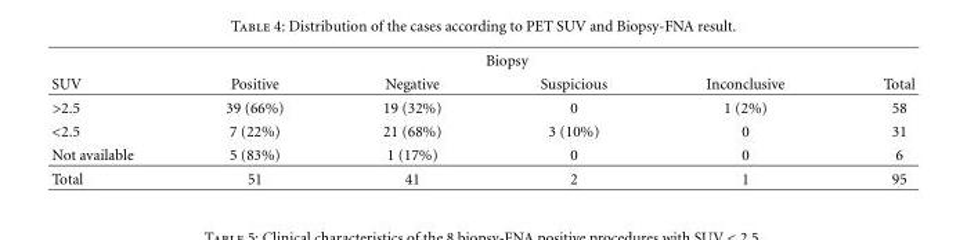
<table><thead><tr><td rowspan="2">SUV</td><td colspan="4">Biopsy</td><td rowspan="2">Total</td></tr><tr><td>Positive</td><td>Negative</td><td>Suspicious</td><td>Inconclusive</td></tr></thead><tbody><tr><td>&gt;2.5</td><td>39 (66%)</td><td>19 (32%)</td><td>0</td><td>1 (2%)</td><td>58</td></tr><tr><td>&lt;2.5</td><td>7 (22%)</td><td>21 (68%)</td><td>3 (10%)</td><td>0</td><td>31</td></tr><tr><td>Not available</td><td>5 (83%)</td><td>1 (17%)</td><td>0</td><td>0</td><td>6</td></tr><tr><td>Total</td><td>51</td><td>41</td><td>2</td><td>1</td><td>95</td></tr></tbody></table>